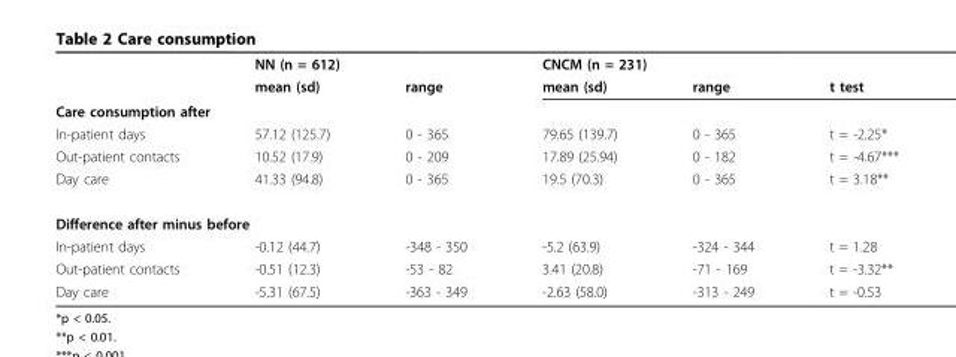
<table><thead><tr><td rowspan="2"></td><td colspan="2">NN (n = 612)</td><td colspan="2">CNCM (n = 231)</td><td rowspan="2">t test</td></tr><tr><td>mean (sd)</td><td>range</td><td>mean (sd)</td><td>range</td></tr></thead><tbody><tr><td colspan="6">Care consumption after</td></tr><tr><td>In-patient days</td><td>57.12 (125.7)</td><td>0 - 365</td><td>79.65 (139.7)</td><td>0 - 365</td><td>t = -2.25*</td></tr><tr><td>Out-patient contacts</td><td>10.52 (17.9)</td><td>0 - 209</td><td>17.89 (25.94)</td><td>0 - 182</td><td>t = -4.67***</td></tr><tr><td>Day care</td><td>41.33 (94.8)</td><td>0 - 365</td><td>19.5 (70.3)</td><td>0 - 365</td><td>t = 3.18**</td></tr><tr><td colspan="6">Difference after minus before</td></tr><tr><td>In-patient days</td><td>-0.12 (44.7)</td><td>-348 - 350</td><td>-5.2 (63.9)</td><td>-324 - 344</td><td>t = 1.28</td></tr><tr><td>Out-patient contacts</td><td>-0.51 (12.3)</td><td>-53 - 82</td><td>3.41 (20.8)</td><td>-71 - 169</td><td>t = -3.32**</td></tr><tr><td>Day care</td><td>-5.31 (67.5)</td><td>-363 - 349</td><td>-2.63 (58.0)</td><td>-313 - 249</td><td>t = -0.53</td></tr></tbody></table>